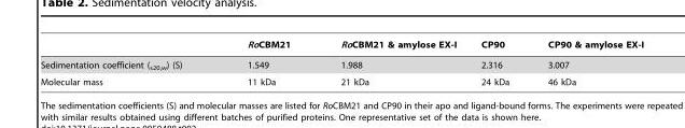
<table><thead><tr><td></td><td>RoCBM21</td><td>RoCBM21 &amp; amylose EX-I</td><td>CP90</td><td>CP90 &amp; amylose EX-I</td></tr></thead><tbody><tr><td>Sedimentation coefficient (<sub>s20,w</sub>) (S)</td><td>1.549</td><td>1.988</td><td>2.316</td><td>3.007</td></tr><tr><td>Molecular mass</td><td>11 kDa</td><td>21 kDa</td><td>24 kDa</td><td>46 kDa</td></tr></tbody></table>